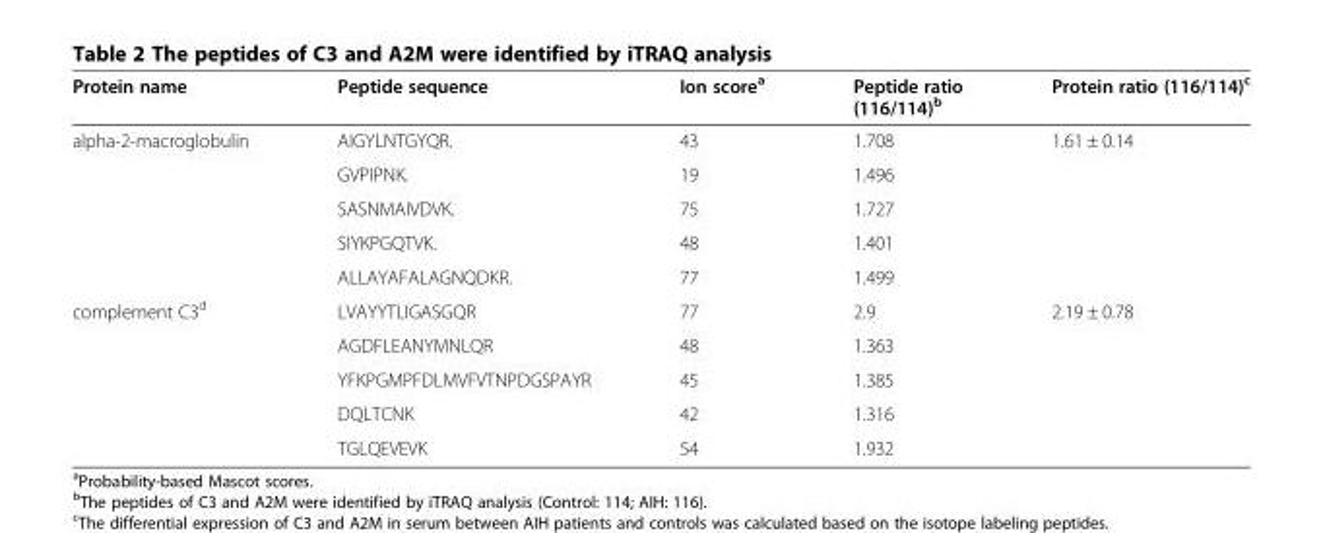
<table><thead><tr><td>Protein name</td><td>Peptide sequence</td><td>Ion score<sup>a</sup></td><td>Peptide ratio (116/114)<sup>b</sup></td><td>Protein ratio (116/114)<sup>c</sup></td></tr></thead><tbody><tr><td rowspan="5">alpha-2-macroglobulin</td><td>AIGYLNTGYQR.</td><td>43</td><td>1.708</td><td>1.61 ± 0.14</td></tr><tr><td>GVPIPNK.</td><td>19</td><td>1.496</td><td rowspan="4"></td></tr><tr><td>SASNMAIVDVK.</td><td>75</td><td>1.727</td></tr><tr><td>SIYKPGQTVK.</td><td>48</td><td>1.401</td></tr><tr><td>ALLAYAFALAGNQDKR.</td><td>77</td><td>1.499</td></tr><tr><td rowspan="5">complement C3<sup>d</sup></td><td>LVAYYTLIGASGQR</td><td>77</td><td>2.9</td><td rowspan="5">2.19 ± 0.78</td></tr><tr><td>AGDFLEANYMNLQR</td><td>48</td><td>1.363</td></tr><tr><td>YFKPGMPFDLMVFVTNPDGSPAYR</td><td>45</td><td>1.385</td></tr><tr><td>DQLTCNK</td><td>42</td><td>1.316</td></tr><tr><td>TGLQEVEVK</td><td>54</td><td>1.932</td></tr></tbody></table>